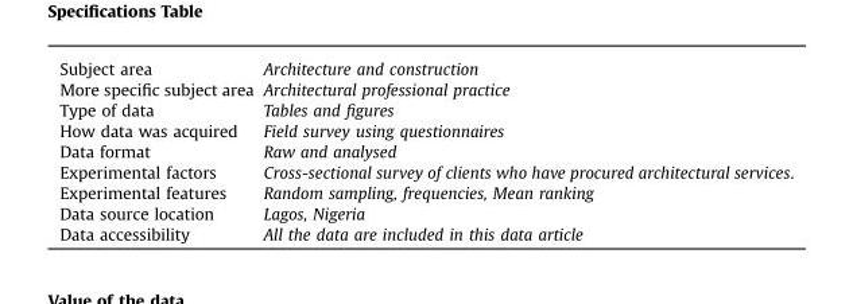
<table><tbody><tr><td>Subject area</td><td>Architecture and construction</td></tr><tr><td>More specific subject area</td><td>Architectural professional practice</td></tr><tr><td>Type of data</td><td>Tables and figures</td></tr><tr><td>How data was acquired</td><td>Field survey using questionnaires</td></tr><tr><td>Data format</td><td>Raw and analysed</td></tr><tr><td>Experimental factors</td><td>Cross-sectional survey of clients who have procured architectural services.</td></tr><tr><td>Experimental features</td><td>Random sampling, frequencies, Mean ranking</td></tr><tr><td>Data source location</td><td>Lagos, Nigeria</td></tr><tr><td>Data accessibility</td><td>All the data are included in this data article</td></tr></tbody></table>